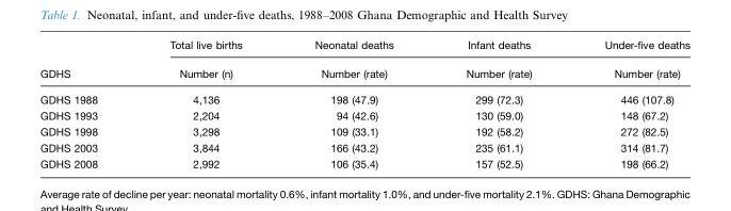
<table><thead><tr><td rowspan="2">GDHS</td><td rowspan="2">Total live births Number (n)</td><td rowspan="2">Neonatal deaths Number (rate)</td><td rowspan="2">Infant deaths Number (rate)</td><td rowspan="2">Under-five deaths Number (rate)</td></tr><tr></tr></thead><tbody><tr><td>GDHS 1988</td><td>4,136</td><td>198 (47.9)</td><td>299 (72.3)</td><td>446 (107.8)</td></tr><tr><td>GDHS 1993</td><td>2,204</td><td>94 (42.6)</td><td>130 (59.0)</td><td>148 (67.2)</td></tr><tr><td>GDHS 1998</td><td>3,298</td><td>109 (33.1)</td><td>192 (58.2)</td><td>272 (82.5)</td></tr><tr><td>GDHS 2003</td><td>3,844</td><td>166 (43.2)</td><td>235 (61.1)</td><td>314 (81.7)</td></tr><tr><td>GDHS 2008</td><td>2,992</td><td>106 (35.4)</td><td>157 (52.5)</td><td>198 (66.2)</td></tr></tbody></table>